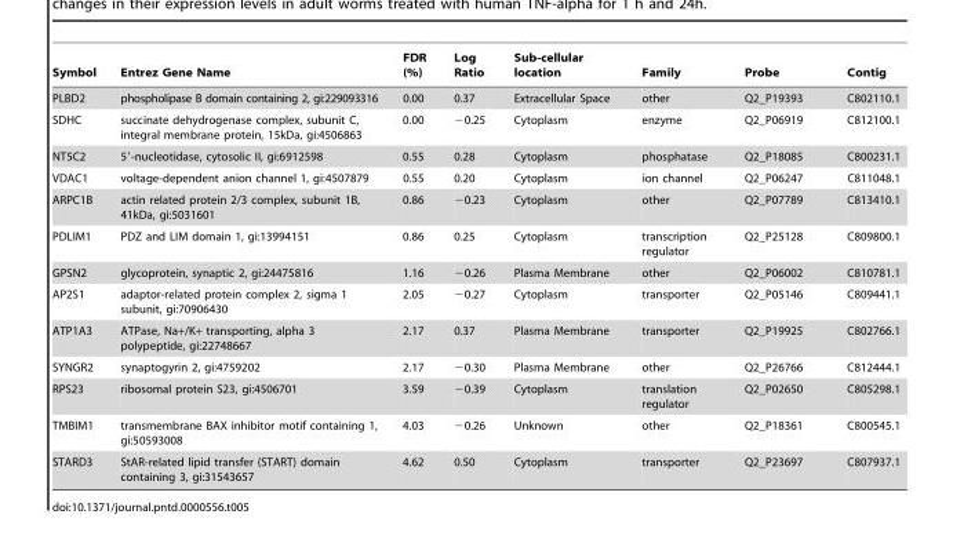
<table><thead><tr><td>Symbol</td><td>Entrez Gene Name</td><td>FDR (%)</td><td>Log Ratio</td><td>Sub-cellular location</td><td>Family</td><td>Probe</td><td>Contig</td></tr></thead><tbody><tr><td>PLBD2</td><td>phospholipase B domain containing 2, gi:229093316</td><td>0.00</td><td>0.37</td><td>Extracellular Space</td><td>other</td><td>Q2_P19393</td><td>C802110.1</td></tr><tr><td>SDHC</td><td>succinate dehydrogenase complex, subunit C, integral membrane protein, 15kDa, gi:4506863</td><td>0.00</td><td>−0.25</td><td>Cytoplasm</td><td>enzyme</td><td>Q2_P06919</td><td>C812100.1</td></tr><tr><td>NT5C2</td><td>5′-nucleotidase, cytosolic II, gi:6912598</td><td>0.55</td><td>0.28</td><td>Cytoplasm</td><td>phosphatase</td><td>Q2_P18085</td><td>C800231.1</td></tr><tr><td>VDAC1</td><td>voltage-dependent anion channel 1, gi:4507879</td><td>0.55</td><td>0.20</td><td>Cytoplasm</td><td>ion channel</td><td>Q2_P06247</td><td>C811048.1</td></tr><tr><td>ARPC1B</td><td>actin related protein 2/3 complex, subunit 1B, 41kDa, gi:5031601</td><td>0.86</td><td>−0.23</td><td>Cytoplasm</td><td>other</td><td>Q2_P07789</td><td>C813410.1</td></tr><tr><td>PDLIM1</td><td>PDZ and LIM domain 1, gi:13994151</td><td>0.86</td><td>0.25</td><td>Cytoplasm</td><td>transcription regulator</td><td>Q2_P25128</td><td>C809800.1</td></tr><tr><td>GPSN2</td><td>glycoprotein, synaptic 2, gi:24475816</td><td>1.16</td><td>−0.26</td><td>Plasma Membrane</td><td>other</td><td>Q2_P06002</td><td>C810781.1</td></tr><tr><td>AP2S1</td><td>adaptor-related protein complex 2, sigma 1 subunit, gi:70906430</td><td>2.05</td><td>−0.27</td><td>Cytoplasm</td><td>transporter</td><td>Q2_P05146</td><td>C809441.1</td></tr><tr><td>ATP1A3</td><td>ATPase, Na+/K+ transporting, alpha 3 polypeptide, gi:22748667</td><td>2.17</td><td>0.37</td><td>Plasma Membrane</td><td>transporter</td><td>Q2_P19925</td><td>C802766.1</td></tr><tr><td>SYNGR2</td><td>synaptogyrin 2, gi:4759202</td><td>2.17</td><td>−0.30</td><td>Plasma Membrane</td><td>other</td><td>Q2_P26766</td><td>C812444.1</td></tr><tr><td>RPS23</td><td>ribosomal protein S23, gi:4506701</td><td>3.59</td><td>−0.39</td><td>Cytoplasm</td><td>translation regulator</td><td>Q2_P02650</td><td>C805298.1</td></tr><tr><td>TMBIM1</td><td>transmembrane BAX inhibitor motif containing 1, gi:50593008</td><td>4.03</td><td>−0.26</td><td>Unknown</td><td>other</td><td>Q2_P18361</td><td>C800545.1</td></tr><tr><td>STARD3</td><td>StAR-related lipid transfer (START) domain containing 3, gi:31543657</td><td>4.62</td><td>0.50</td><td>Cytoplasm</td><td>transporter</td><td>Q2_P23697</td><td>C807937.1</td></tr></tbody></table>